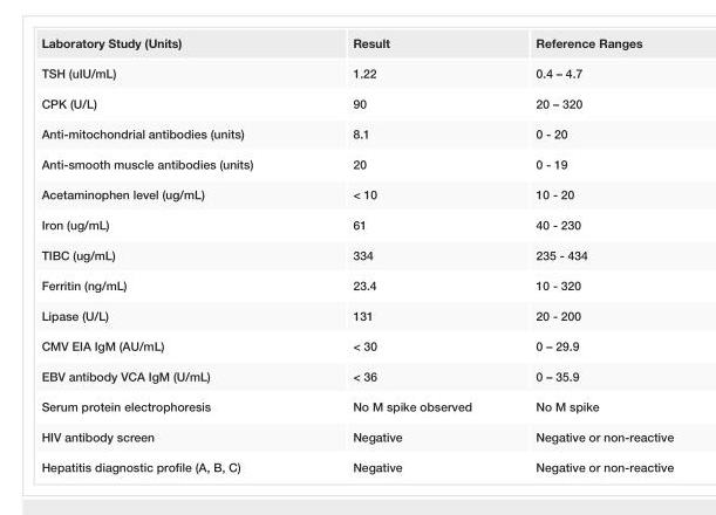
<table><tbody><tr><td>Laboratory Study (Units)</td><td>Result</td><td>Reference Ranges</td></tr><tr><td>TSH (uIU/mL)</td><td>1.22</td><td>0.4 – 4.7</td></tr><tr><td>CPK (U/L)</td><td>90</td><td>20 – 320</td></tr><tr><td>Anti-mitochondrial antibodies (units)</td><td>8.1</td><td>0 - 20</td></tr><tr><td>Anti-smooth muscle antibodies (units)</td><td>20</td><td>0 - 19</td></tr><tr><td>Acetaminophen level (ug/mL)</td><td>&lt; 10</td><td>10 - 20</td></tr><tr><td>Iron (ug/mL)</td><td>61</td><td>40 - 230</td></tr><tr><td>TIBC (ug/mL)</td><td>334</td><td>235 - 434</td></tr><tr><td>Ferritin (ng/mL)</td><td>23.4</td><td>10 - 320</td></tr><tr><td>Lipase (U/L)</td><td>131</td><td>20 - 200</td></tr><tr><td>CMV EIA IgM (AU/mL)</td><td>&lt; 30</td><td>0 – 29.9</td></tr><tr><td>EBV antibody VCA IgM (U/mL)</td><td>&lt; 36</td><td>0 – 35.9</td></tr><tr><td>Serum protein electrophoresis</td><td>No M spike observed</td><td>No M spike</td></tr><tr><td>HIV antibody screen</td><td>Negative</td><td>Negative or non-reactive</td></tr><tr><td>Hepatitis diagnostic profile (A, B, C)</td><td>Negative</td><td>Negative or non-reactive</td></tr></tbody></table>